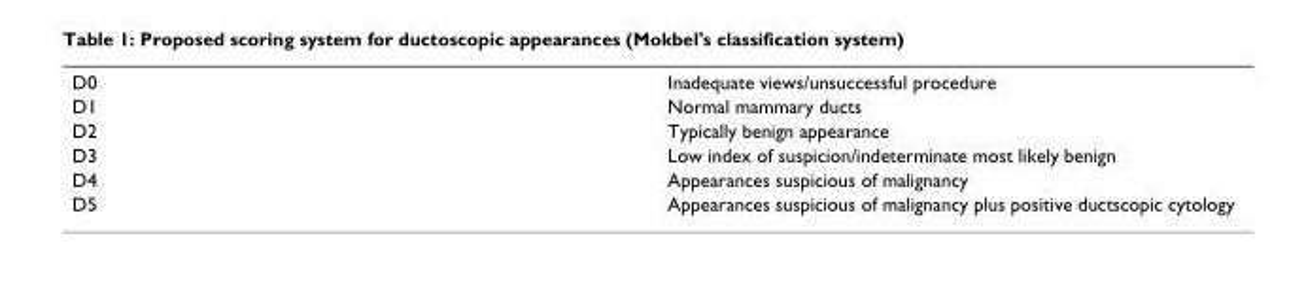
<table><tbody><tr><td>D0</td><td>Inadequate views/unsuccessful procedure</td></tr><tr><td>D1</td><td>Normal mammary ducts</td></tr><tr><td>D2</td><td>Typically benign appearance</td></tr><tr><td>D3</td><td>Low index of suspicion/indeterminate most likely benign</td></tr><tr><td>D4</td><td>Appearances suspicious of malignancy</td></tr><tr><td>D5</td><td>Appearances suspicious of malignancy plus positive ductscopic cytology</td></tr></tbody></table>